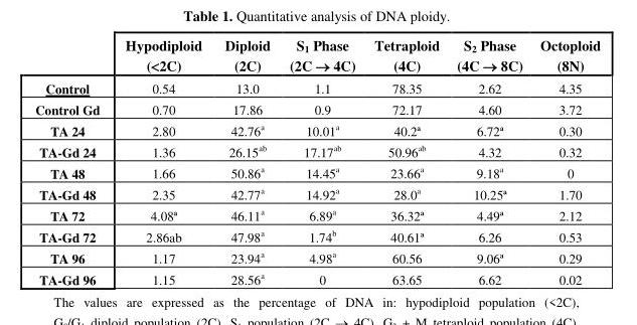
<table><thead><tr><td></td><td>Hypodiploid (&lt;2C)</td><td>Diploid (2C)</td><td>S<sub>1</sub> Phase (2C → 4C)</td><td>Tetraploid (4C)</td><td>S<sub>2</sub> Phase (4C → 8C)</td><td>Octoploid (8N)</td></tr></thead><tbody><tr><td>Control</td><td>0.54</td><td>13.0</td><td>1.1</td><td>78.35</td><td>2.62</td><td>4.35</td></tr><tr><td>Control Gd</td><td>0.70</td><td>17.86</td><td>0.9</td><td>72.17</td><td>4.60</td><td>3.72</td></tr><tr><td>TA 24</td><td>2.80</td><td>42.76<sup>a</sup></td><td>10.01<sup>a</sup></td><td>40.2ª</td><td>6.72ª</td><td>0.30</td></tr><tr><td>TA-Gd 24</td><td>1.36</td><td>26.15<sup>ab</sup></td><td>17.17<sup>ab</sup></td><td>50.96<sup>ab</sup></td><td>4.32</td><td>0.32</td></tr><tr><td>TA 48</td><td>1.66</td><td>50.86<sup>a</sup></td><td>14.45<sup>a</sup></td><td>23.66<sup>a</sup></td><td>9.18<sup>a</sup></td><td>0</td></tr><tr><td>TA-Gd 48</td><td>2.35</td><td>42.77<sup>a</sup></td><td>14.92<sup>a</sup></td><td>28.0<sup>a</sup></td><td>10.25ª</td><td>1.70</td></tr><tr><td>TA 72</td><td>4.08ª</td><td>46.11<sup>a</sup></td><td>6.89<sup>a</sup></td><td>36.32ª</td><td>4.49ª</td><td>2.12</td></tr><tr><td>TA-Gd 72</td><td>2.86ab</td><td>47.98<sup>a</sup></td><td>1.74<sup>b</sup></td><td>40.61ª</td><td>6.26</td><td>0.53</td></tr><tr><td>TA 96</td><td>1.17</td><td>23.94<sup>a</sup></td><td>4.98<sup>a</sup></td><td>60.56</td><td>9.06ª</td><td>0.29</td></tr><tr><td>TA-Gd 96</td><td>1.15</td><td>28.56<sup>a</sup></td><td>0</td><td>63.65</td><td>6.62</td><td>0.02</td></tr></tbody></table>